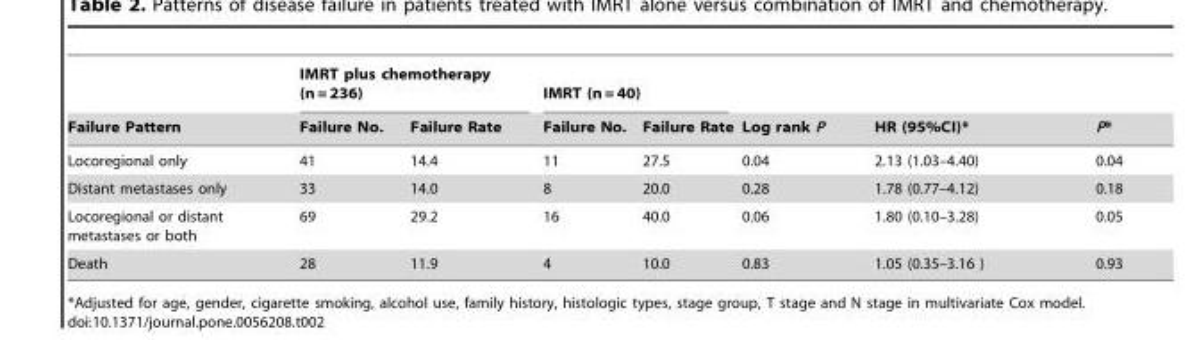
<table><thead><tr><td rowspan="2">Failure Pattern</td><td colspan="2">IMRT plus chemotherapy (n = 236)</td><td colspan="2">IMRT (n = 40)</td><td rowspan="2">Log rank P</td><td rowspan="2">HR (95%CI)*</td><td rowspan="2">P*</td></tr><tr><td>Failure No.</td><td>Failure Rate</td><td>Failure No.</td><td>Failure Rate</td></tr></thead><tbody><tr><td>Locoregional only</td><td>41</td><td>14.4</td><td>11</td><td>27.5</td><td>0.04</td><td>2.13 (1.03–4.40)</td><td>0.04</td></tr><tr><td>Distant metastases only</td><td>33</td><td>14.0</td><td>8</td><td>20.0</td><td>0.28</td><td>1.78 (0.77–4.12)</td><td>0.18</td></tr><tr><td>Locoregional or distant metastases or both</td><td>69</td><td>29.2</td><td>16</td><td>40.0</td><td>0.06</td><td>1.80 (0.10–3.28)</td><td>0.05</td></tr><tr><td>Death</td><td>28</td><td>11.9</td><td>4</td><td>10.0</td><td>0.83</td><td>1.05 (0.35–3.16 )</td><td>0.93</td></tr></tbody></table>